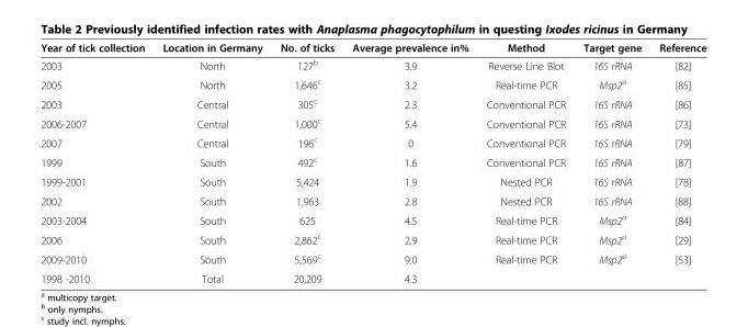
<table><thead><tr><td>Year of tick collection</td><td>Location in Germany</td><td>No. of ticks</td><td>Average prevalence in%</td><td>Method</td><td>Target gene</td><td>Reference</td></tr></thead><tbody><tr><td>2003</td><td>North</td><td>127<sup>b</sup></td><td>3.9</td><td>Reverse Line Blot</td><td>16S rRNA</td><td>[82]</td></tr><tr><td>2005</td><td>North</td><td>1,646<sup>c</sup></td><td>3.2</td><td>Real-time PCR</td><td>Msp2<sup>a</sup></td><td>[85]</td></tr><tr><td>2003</td><td>Central</td><td>305<sup>c</sup></td><td>2.3</td><td>Conventional PCR</td><td>16S rRNA</td><td>[86]</td></tr><tr><td>2006-2007</td><td>Central</td><td>1,000<sup>c</sup></td><td>5.4</td><td>Conventional PCR</td><td>16S rRNA</td><td>[73]</td></tr><tr><td>2007</td><td>Central</td><td>196<sup>c</sup></td><td>0</td><td>Conventional PCR</td><td>16S rRNA</td><td>[79]</td></tr><tr><td>1999</td><td>South</td><td>492<sup>c</sup></td><td>1.6</td><td>Conventional PCR</td><td>16S rRNA</td><td>[87]</td></tr><tr><td>1999-2001</td><td>South</td><td>5,424</td><td>1.9</td><td>Nested PCR</td><td>16S rRNA</td><td>[78]</td></tr><tr><td>2002</td><td>South</td><td>1,963</td><td>2.8</td><td>Nested PCR</td><td>16S rRNA</td><td>[88]</td></tr><tr><td>2003-2004</td><td>South</td><td>625</td><td>4.5</td><td>Real-time PCR</td><td>Msp2<sup>a</sup></td><td>[84]</td></tr><tr><td>2006</td><td>South</td><td>2,862<sup>c</sup></td><td>2.9</td><td>Real-time PCR</td><td>Msp2<sup>a</sup></td><td>[29]</td></tr><tr><td>2009-2010</td><td>South</td><td>5,569<sup>c</sup></td><td>9.0</td><td>Real-time PCR</td><td>Msp2<sup>a</sup></td><td>[53]</td></tr><tr><td>1998 -2010</td><td>Total</td><td>20,209</td><td>4.3</td><td></td><td></td><td></td></tr></tbody></table>